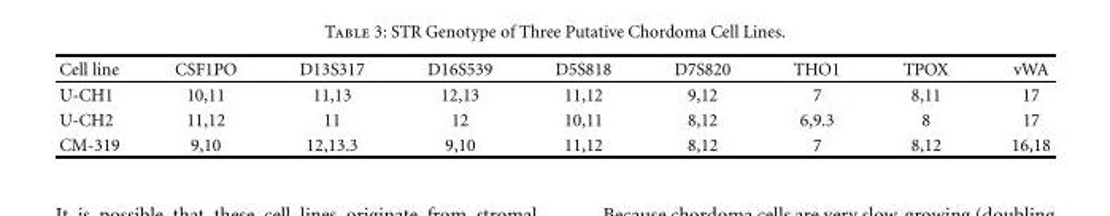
<table><thead><tr><td>Cell line</td><td>CSF1PO</td><td>D13S317</td><td>D16S539</td><td>D5S818</td><td>D7S820</td><td>THO1</td><td>TPOX</td><td>vWA</td></tr></thead><tbody><tr><td>U-CH1</td><td>10,11</td><td>11,13</td><td>12,13</td><td>11,12</td><td>9,12</td><td>7</td><td>8,11</td><td>17</td></tr><tr><td>U-CH2</td><td>11,12</td><td>11</td><td>12</td><td>10,11</td><td>8,12</td><td>6,9.3</td><td>8</td><td>17</td></tr><tr><td>CM-319</td><td>9,10</td><td>12,13.3</td><td>9,10</td><td>11,12</td><td>8,12</td><td>7</td><td>8,12</td><td>16,18</td></tr></tbody></table>